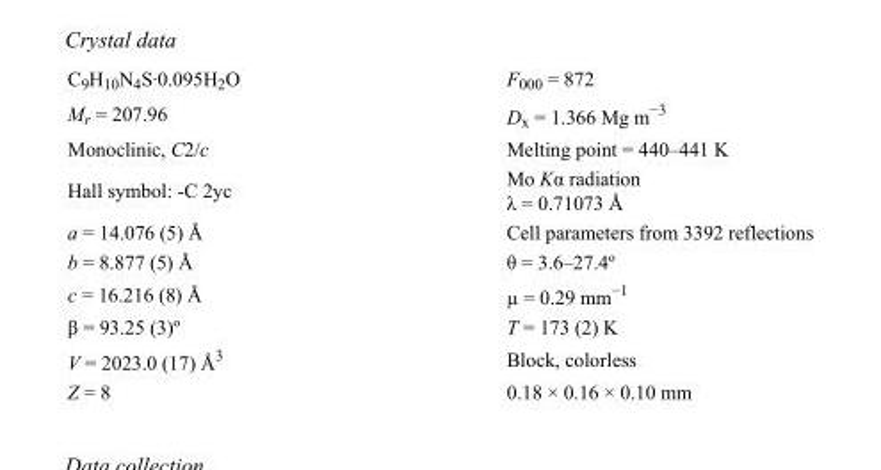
<table><tbody><tr><td>C<sub>9</sub>H<sub>10</sub>N<sub>4</sub>S·0.095H<sub>2</sub>O</td><td>F<sub>000</sub> = 872</td></tr><tr><td>M<sub>r</sub> = 207.96</td><td>D<sub>x</sub> = 1.366 Mg m<sup>−3</sup></td></tr><tr><td>Monoclinic, C2/c</td><td>Melting point = 440–441 K</td></tr><tr><td>Hall symbol: -C 2yc</td><td>Mo Kα radiation λ = 0.71073 Å</td></tr><tr><td>a = 14.076 (5) Å</td><td>Cell parameters from 3392 reflections</td></tr><tr><td>b = 8.877 (5) Å</td><td>θ = 3.6–27.4º</td></tr><tr><td>c = 16.216 (8) Å</td><td>µ = 0.29 mm<sup>−1</sup></td></tr><tr><td>β = 93.25 (3)º</td><td>T = 173 (2) K</td></tr><tr><td>V = 2023.0 (17) Å<sup>3</sup></td><td>Block, colorless</td></tr><tr><td>Z = 8</td><td>0.18 × 0.16 × 0.10 mm</td></tr></tbody></table>